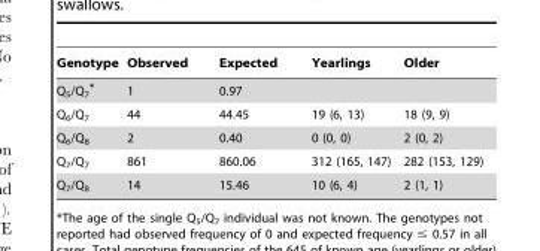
<table><thead><tr><td>Genotype</td><td>Observed</td><td>Expected</td><td>Yearlings</td><td>Older</td></tr></thead><tbody><tr><td>Q<sub>5</sub>/Q<sub>7</sub> *</td><td>1</td><td>0.97</td><td></td><td></td></tr><tr><td>Q<sub>6</sub>/Q<sub>7</sub></td><td>44</td><td>44.45</td><td>19 (6, 13)</td><td>18 (9, 9)</td></tr><tr><td>Q<sub>6</sub>/Q<sub>8</sub></td><td>2</td><td>0.40</td><td>0 (0, 0)</td><td>2 (0, 2)</td></tr><tr><td>Q<sub>7</sub>/Q<sub>7</sub></td><td>861</td><td>860.06</td><td>312 (165, 147)</td><td>282 (153, 129)</td></tr><tr><td>Q<sub>7</sub>/Q<sub>8</sub></td><td>14</td><td>15.46</td><td>10 (6, 4)</td><td>2 (1, 1)</td></tr></tbody></table>